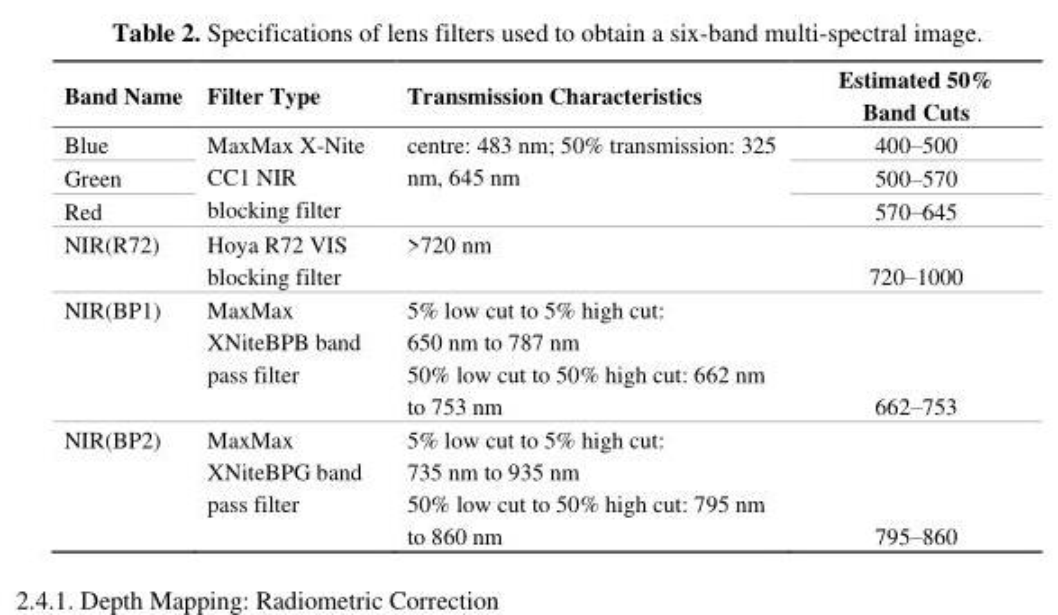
<table><thead><tr><td>Band Name</td><td>Filter Type</td><td>Transmission Characteristics</td><td>Estimated 50% Band Cuts</td></tr></thead><tbody><tr><td>Blue</td><td rowspan="3">MaxMax X-Nite CC1 NIR blocking filter</td><td rowspan="3">centre: 483 nm; 50% transmission: 325 nm, 645 nm</td><td>400–500</td></tr><tr><td>Green</td><td>500–570</td></tr><tr><td>Red</td><td>570–645</td></tr><tr><td>NIR(R72)</td><td>Hoya R72 VIS blocking filter</td><td>&gt;720 nm</td><td>720–1000</td></tr><tr><td>NIR(BP1)</td><td>MaxMax XNiteBPB band pass filter</td><td>5% low cut to 5% high cut: 650 nm to 787 nm 50% low cut to 50% high cut: 662 nm to 753 nm</td><td>662–753</td></tr><tr><td>NIR(BP2)</td><td>MaxMax XNiteBPG band pass filter</td><td>5% low cut to 5% high cut: 735 nm to 935 nm 50% low cut to 50% high cut: 795 nm to 860 nm</td><td>795–860</td></tr></tbody></table>